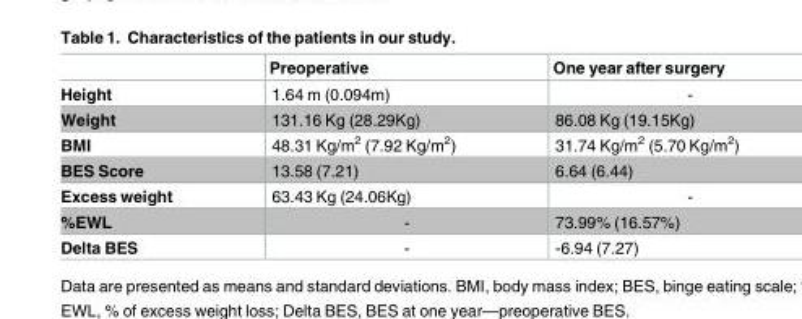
<table><thead><tr><td></td><td>Preoperative</td><td>One year after surgery</td></tr></thead><tbody><tr><td>Height</td><td>1.64 m (0.094m)</td><td>-</td></tr><tr><td>Weight</td><td>131.16 Kg (28.29Kg)</td><td>86.08 Kg (19.15Kg)</td></tr><tr><td>BMI</td><td>48.31 Kg/m<sup>2</sup> (7.92 Kg/m<sup>2</sup>)</td><td>31.74 Kg/m<sup>2</sup> (5.70 Kg/m<sup>2</sup>)</td></tr><tr><td>BES Score</td><td>13.58 (7.21)</td><td>6.64 (6.44)</td></tr><tr><td>Excess weight</td><td>63.43 Kg (24.06Kg)</td><td>-</td></tr><tr><td>%EWL</td><td>-</td><td>73.99% (16.57%)</td></tr><tr><td>Delta BES</td><td>-</td><td>-6.94 (7.27)</td></tr></tbody></table>